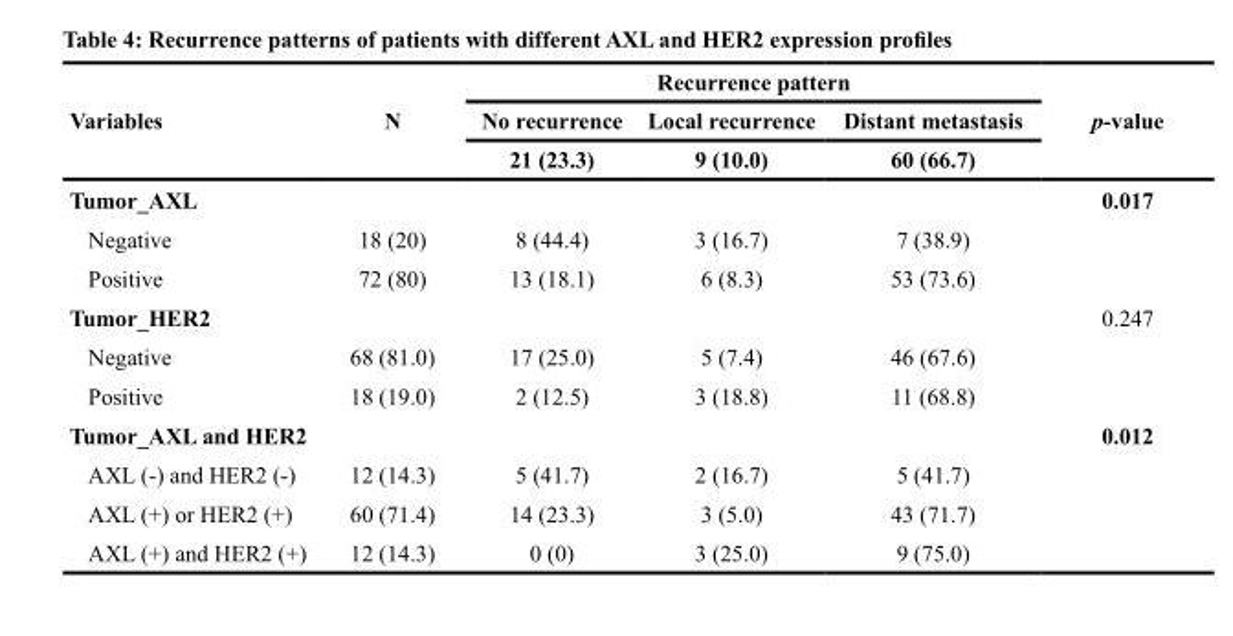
<table><thead><tr><td rowspan="3">Variables</td><td rowspan="3">N</td><td colspan="3">Recurrence pattern</td><td rowspan="3">p-value</td></tr><tr><td rowspan="2">No recurrence 21 (23.3)</td><td rowspan="2">Local recurrence 9 (10.0)</td><td rowspan="2">Distant metastasis 60 (66.7)</td></tr><tr></tr></thead><tbody><tr><td>Tumor_AXL</td><td></td><td></td><td></td><td></td><td>0.017</td></tr><tr><td>Negative</td><td>18 (20)</td><td>8 (44.4)</td><td>3 (16.7)</td><td>7 (38.9)</td><td></td></tr><tr><td>Positive</td><td>72 (80)</td><td>13 (18.1)</td><td>6 (8.3)</td><td>53 (73.6)</td><td></td></tr><tr><td>Tumor_HER2</td><td></td><td></td><td></td><td></td><td>0.247</td></tr><tr><td>Negative</td><td>68 (81.0)</td><td>17 (25.0)</td><td>5 (7.4)</td><td>46 (67.6)</td><td></td></tr><tr><td>Positive</td><td>18 (19.0)</td><td>2 (12.5)</td><td>3 (18.8)</td><td>11 (68.8)</td><td></td></tr><tr><td>Tumor_AXL and HER2</td><td></td><td></td><td></td><td></td><td>0.012</td></tr><tr><td>AXL (-) and HER2 (-)</td><td>12 (14.3)</td><td>5 (41.7)</td><td>2 (16.7)</td><td>5 (41.7)</td><td></td></tr><tr><td>AXL (+) or HER2 (+)</td><td>60 (71.4)</td><td>14 (23.3)</td><td>3 (5.0)</td><td>43 (71.7)</td><td></td></tr><tr><td>AXL (+) and HER2 (+)</td><td>12 (14.3)</td><td>0 (0)</td><td>3 (25.0)</td><td>9 (75.0)</td><td></td></tr></tbody></table>